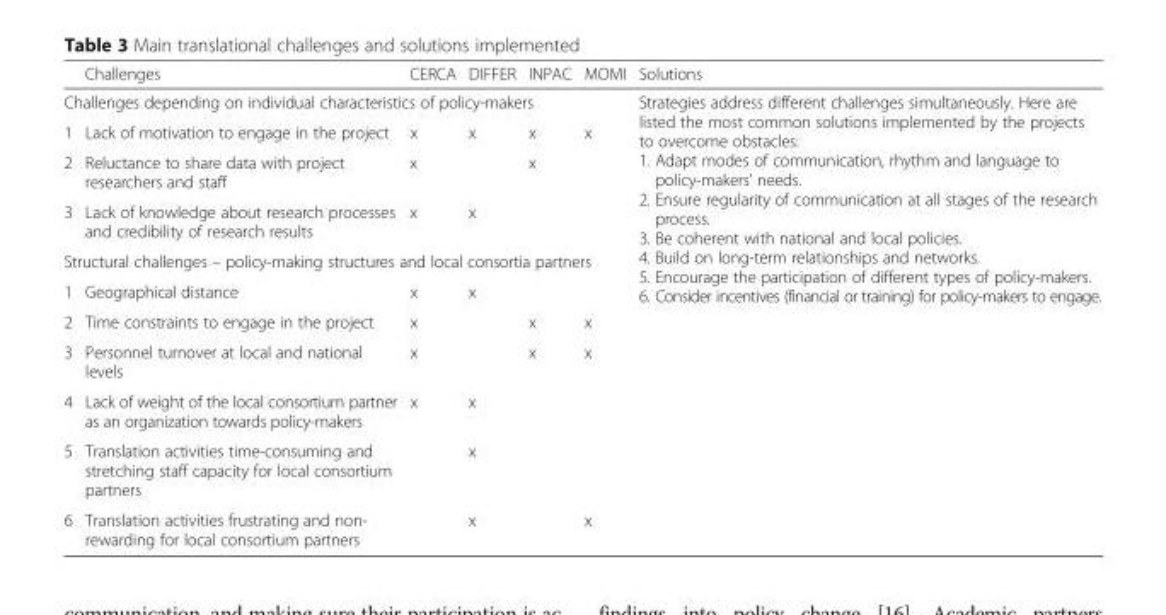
<table><thead><tr><td></td><td>Challenges</td><td>CERCA</td><td>DIFFER</td><td>INPAC</td><td>MOMI</td><td>Solutions</td></tr></thead><tbody><tr><td colspan="6">Challenges depending on individual characteristics of policy-makers</td><td rowspan="11">Strategies address different challenges simultaneously. Here are listed the most common solutions implemented by the projects to overcome obstacles: 1. Adapt modes of communication, rhythm and language to policy-makers’ needs. 2. Ensure regularity of communication at all stages of the research process. 3. Be coherent with national and local policies. 4. Build on long-term relationships and networks. 5. Encourage the participation of different types of policy-makers. 6. Consider incentives (financial or training) for policy-makers to engage.</td></tr><tr><td>1</td><td>Lack of motivation to engage in the project</td><td>x</td><td>x</td><td>x</td><td>x</td></tr><tr><td>2</td><td>Reluctance to share data with project researchers and staff</td><td>x</td><td></td><td>x</td><td></td></tr><tr><td>3</td><td>Lack of knowledge about research processes and credibility of research results</td><td>x</td><td>x</td><td></td><td></td></tr><tr><td colspan="6">Structural challenges – policy-making structures and local consortia partners</td></tr><tr><td>1</td><td>Geographical distance</td><td>x</td><td>x</td><td></td><td></td></tr><tr><td>2</td><td>Time constraints to engage in the project</td><td>x</td><td></td><td>x</td><td>x</td></tr><tr><td>3</td><td>Personnel turnover at local and national levels</td><td>x</td><td></td><td>x</td><td>x</td></tr><tr><td>4</td><td>Lack of weight of the local consortium partner as an organization towards policy-makers</td><td>x</td><td>x</td><td></td><td></td></tr><tr><td>5</td><td>Translation activities time-consuming and stretching staff capacity for local consortium partners</td><td></td><td>x</td><td></td><td></td></tr><tr><td>6</td><td>Translation activities frustrating and non- rewarding for local consortium partners</td><td></td><td>x</td><td></td><td>x</td></tr></tbody></table>